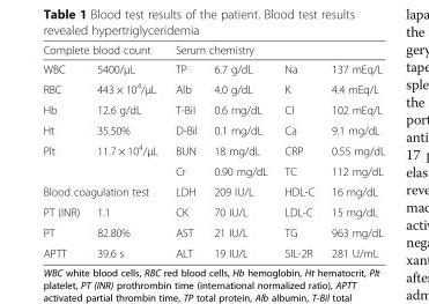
<table><thead><tr><td colspan="2">Complete blood count</td><td colspan="2">Serum chemistry</td><td rowspan="2">Na</td><td rowspan="2">137 mEq/L</td></tr><tr><td>WBC</td><td>5400/μL</td><td>TP</td><td>6.7 g/dL</td></tr></thead><tbody><tr><td>RBC</td><td>443 × 10<sup>4</sup>/μL</td><td>Alb</td><td>4.0 g/dL</td><td>K</td><td>4.4 mEq/L</td></tr><tr><td>Hb</td><td>12.6 g/dL</td><td>T-Bil</td><td>0.6 mg/dL</td><td>Cl</td><td>102 mEq/L</td></tr><tr><td>Ht</td><td>35.50%</td><td>D-Bil</td><td>0.1 mg/dL</td><td>Ca</td><td>9.1 mg/dL</td></tr><tr><td rowspan="2">Plt</td><td>11.7 × 10<sup>4</sup>/μL</td><td>BUN</td><td>18 mg/dL</td><td>CRP</td><td>0.55 mg/dL</td></tr><tr><td></td><td>Cr</td><td>0.90 mg/dL</td><td>TC</td><td>112 mg/dL</td></tr><tr><td colspan="2">Blood coagulation test</td><td>LDH</td><td>209 IU/L</td><td>HDL-C</td><td>16 mg/dL</td></tr><tr><td>PT (INR)</td><td>1.1</td><td>CK</td><td>70 IU/L</td><td>LDL-C</td><td>15 mg/dL</td></tr><tr><td>PT</td><td>82.80%</td><td>AST</td><td>21 IU/L</td><td>TG</td><td>963 mg/dL</td></tr><tr><td>APTT</td><td>39.6 s</td><td>ALT</td><td>19 IU/L</td><td>SIL-2R</td><td>281 U/mL</td></tr></tbody></table>